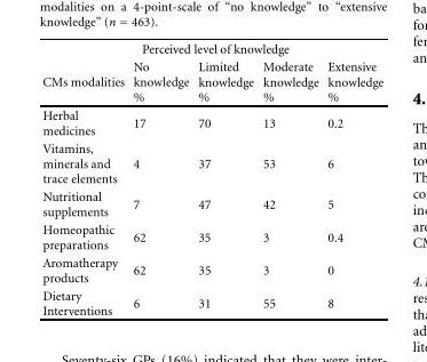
<table><thead><tr><td colspan="5">Perceived level of knowledge</td></tr><tr><td>CMs modalities</td><td>No knowledge %</td><td>Limited knowledge %</td><td>Moderate knowledge %</td><td>Extensive knowledge %</td></tr></thead><tbody><tr><td>Herbal medicines</td><td>17</td><td>70</td><td>13</td><td>0.2</td></tr><tr><td>Vitamins, minerals and trace elements</td><td>4</td><td>37</td><td>53</td><td>6</td></tr><tr><td>Nutritional supplements</td><td>7</td><td>47</td><td>42</td><td>5</td></tr><tr><td>Homeopathic preparations</td><td>62</td><td>35</td><td>3</td><td>0.4</td></tr><tr><td>Aromatherapy products</td><td>62</td><td>35</td><td>3</td><td>0</td></tr><tr><td>Dietary Interventions</td><td>6</td><td>31</td><td>55</td><td>8</td></tr></tbody></table>